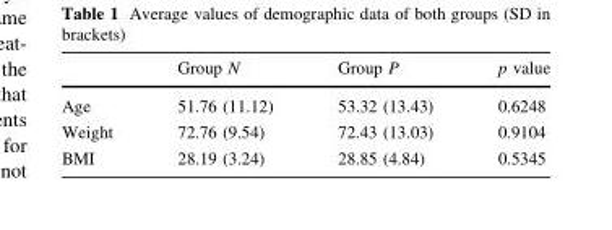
<table><thead><tr><td></td><td>Group N</td><td>Group P</td><td>p value</td></tr></thead><tbody><tr><td>Age</td><td>51.76 (11.12)</td><td>53.32 (13.43)</td><td>0.6248</td></tr><tr><td>Weight</td><td>72.76 (9.54)</td><td>72.43 (13.03)</td><td>0.9104</td></tr><tr><td>BMI</td><td>28.19 (3.24)</td><td>28.85 (4.84)</td><td>0.5345</td></tr></tbody></table>